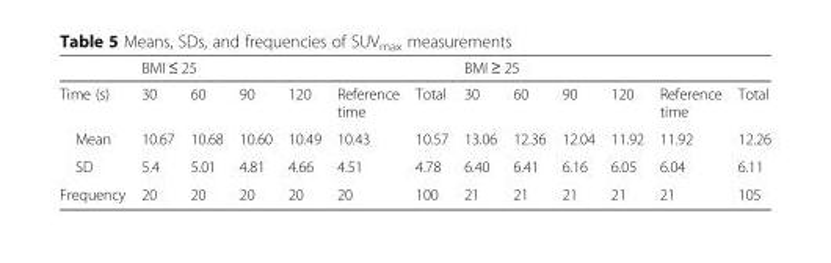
<table><thead><tr><td rowspan="2">Time (s)</td><td colspan="6">BMI ≤ 25</td><td colspan="6">BMI ≥ 25</td></tr><tr><td>30</td><td>60</td><td>90</td><td>120</td><td>Reference time</td><td>Total</td><td>30</td><td>60</td><td>90</td><td>120</td><td>Reference time</td><td>Total</td></tr></thead><tbody><tr><td>Mean</td><td>10.67</td><td>10.68</td><td>10.60</td><td>10.49</td><td>10.43</td><td>10.57</td><td>13.06</td><td>12.36</td><td>12.04</td><td>11.92</td><td>11.92</td><td>12.26</td></tr><tr><td>SD</td><td>5.4</td><td>5.01</td><td>4.81</td><td>4.66</td><td>4.51</td><td>4.78</td><td>6.40</td><td>6.41</td><td>6.16</td><td>6.05</td><td>6.04</td><td>6.11</td></tr><tr><td>Frequency</td><td>20</td><td>20</td><td>20</td><td>20</td><td>20</td><td>100</td><td>21</td><td>21</td><td>21</td><td>21</td><td>21</td><td>105</td></tr></tbody></table>